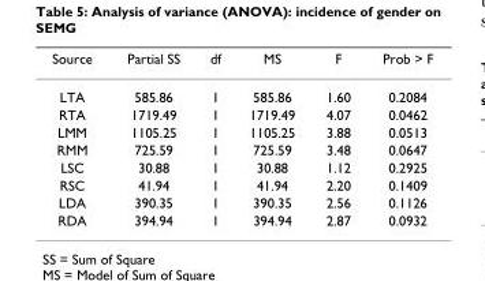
<table><thead><tr><td>Source</td><td>Partial SS</td><td>df</td><td>MS</td><td>F</td><td>Prob &gt; F</td></tr></thead><tbody><tr><td>LTA</td><td>585.86</td><td>1</td><td>585.86</td><td>1.60</td><td>0.2084</td></tr><tr><td>RTA</td><td>1719.49</td><td>1</td><td>1719.49</td><td>4.07</td><td>0.0462</td></tr><tr><td>LMM</td><td>1105.25</td><td>1</td><td>1105.25</td><td>3.88</td><td>0.0513</td></tr><tr><td>RMM</td><td>725.59</td><td>1</td><td>725.59</td><td>3.48</td><td>0.0647</td></tr><tr><td>LSC</td><td>30.88</td><td>1</td><td>30.88</td><td>1.12</td><td>0.2925</td></tr><tr><td>RSC</td><td>41.94</td><td>1</td><td>41.94</td><td>2.20</td><td>0.1409</td></tr><tr><td>LDA</td><td>390.35</td><td>1</td><td>390.35</td><td>2.56</td><td>0.1126</td></tr><tr><td>RDA</td><td>394.94</td><td>1</td><td>394.94</td><td>2.87</td><td>0.0932</td></tr></tbody></table>